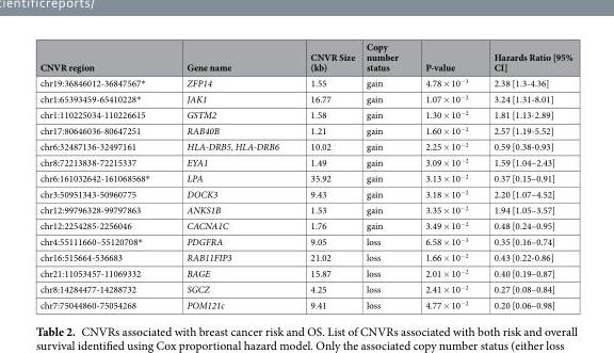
<table><thead><tr><td>CNVR region</td><td>Gene name</td><td>CNVR Size (kb)</td><td>Copy number status</td><td>P-value</td><td>Hazards Ratio [95% CI]</td></tr></thead><tbody><tr><td>chr19:36846012-36847567*</td><td>ZFP14</td><td>1.55</td><td>gain</td><td>4.78 × 10<sup>−3</sup></td><td>2.38 [1.3-4.36]</td></tr><tr><td>chr1:65393459-65410228*</td><td>JAK1</td><td>16.77</td><td>gain</td><td>1.07 × 10<sup>−2</sup></td><td>3.24 [1.31-8.01]</td></tr><tr><td>chr1:110225034-110226615</td><td>GSTM2</td><td>1.58</td><td>gain</td><td>1.30 × 10<sup>−2</sup></td><td>1.81 [1.13-2.89]</td></tr><tr><td>chr17:80646036-80647251</td><td>RAB40B</td><td>1.21</td><td>gain</td><td>1.60 × 10<sup>−2</sup></td><td>2.57 [1.19-5.52]</td></tr><tr><td>chr6:32487136-32497161</td><td>HLA-DRB5, HLA-DRB6</td><td>10.02</td><td>gain</td><td>2.25 × 10<sup>−2</sup></td><td>0.59 [0.38-0.93]</td></tr><tr><td>chr8:72213838-72215337</td><td>EYA1</td><td>1.49</td><td>gain</td><td>3.09 × 10<sup>−2</sup></td><td>1.59 [1.04–2.43]</td></tr><tr><td>chr6:161032642-161068568*</td><td>LPA</td><td>35.92</td><td>gain</td><td>3.13 × 10<sup>−2</sup></td><td>0.37 [0.15–0.91]</td></tr><tr><td>chr3:50951343-50960775</td><td>DOCK3</td><td>9.43</td><td>gain</td><td>3.18 × 10<sup>−2</sup></td><td>2.20 [1.07–4.52]</td></tr><tr><td>chr12:99796328-99797863</td><td>ANKS1B</td><td>1.53</td><td>gain</td><td>3.35 × 10<sup>−2</sup></td><td>1.94 [1.05–3.57]</td></tr><tr><td>chr12:2254285-2256046</td><td>CACNA1C</td><td>1.76</td><td>gain</td><td>3.49 × 10<sup>−2</sup></td><td>0.48 [0.24–0.95]</td></tr><tr><td>chr4:55111660–55120708*</td><td>PDGFRA</td><td>9.05</td><td>loss</td><td>6.58 × 10<sup>−3</sup></td><td>0.35 [0.16–0.74]</td></tr><tr><td>chr16:515664-536683</td><td>RAB11FIP3</td><td>21.02</td><td>loss</td><td>1.66 × 10<sup>−2</sup></td><td>0.43 [0.22-0.86]</td></tr><tr><td>chr21:11053457-11069332</td><td>BAGE</td><td>15.87</td><td>loss</td><td>2.01 × 10<sup>−2</sup></td><td>0.40 [0.19–0.87]</td></tr><tr><td>chr8:14284477-14288732</td><td>SGCZ</td><td>4.25</td><td>loss</td><td>2.41 × 10<sup>−2</sup></td><td>0.27 [0.08–0.84]</td></tr><tr><td>chr7:75044860-75054268</td><td>POM121c</td><td>9.41</td><td>loss</td><td>4.77 × 10<sup>−2</sup></td><td>0.20 [0.06–0.98]</td></tr></tbody></table>